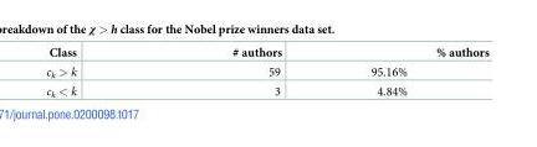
<table><thead><tr><td>Class</td><td># authors</td><td>% authors</td></tr></thead><tbody><tr><td>c<sub>k</sub> &gt; k</td><td>59</td><td>95.16%</td></tr><tr><td>c<sub>k</sub> &lt; k</td><td>3</td><td>4.84%</td></tr></tbody></table>